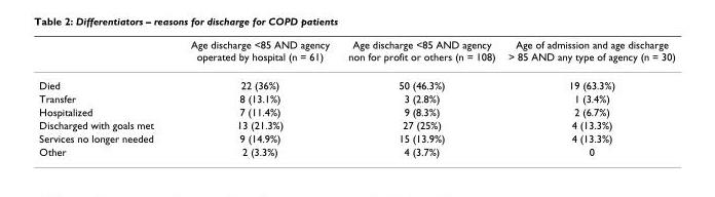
<table><thead><tr><td></td><td>Age discharge &lt;85 AND agency operated by hospital (n = 61)</td><td>Age discharge &lt;85 AND agency non for profit or others (n = 108)</td><td>Age of admission and age discharge &gt; 85 AND any type of agency (n = 30)</td></tr></thead><tbody><tr><td>Died</td><td>22 (36%)</td><td>50 (46.3%)</td><td>19 (63.3%)</td></tr><tr><td>Transfer</td><td>8 (13.1%)</td><td>3 (2.8%)</td><td>1 (3.4%)</td></tr><tr><td>Hospitalized</td><td>7 (11.4%)</td><td>9 (8.3%)</td><td>2 (6.7%)</td></tr><tr><td>Discharged with goals met</td><td>13 (21.3%)</td><td>27 (25%)</td><td>4 (13.3%)</td></tr><tr><td>Services no longer needed</td><td>9 (14.9%)</td><td>15 (13.9%)</td><td>4 (13.3%)</td></tr><tr><td>Other</td><td>2 (3.3%)</td><td>4 (3.7%)</td><td>0</td></tr></tbody></table>